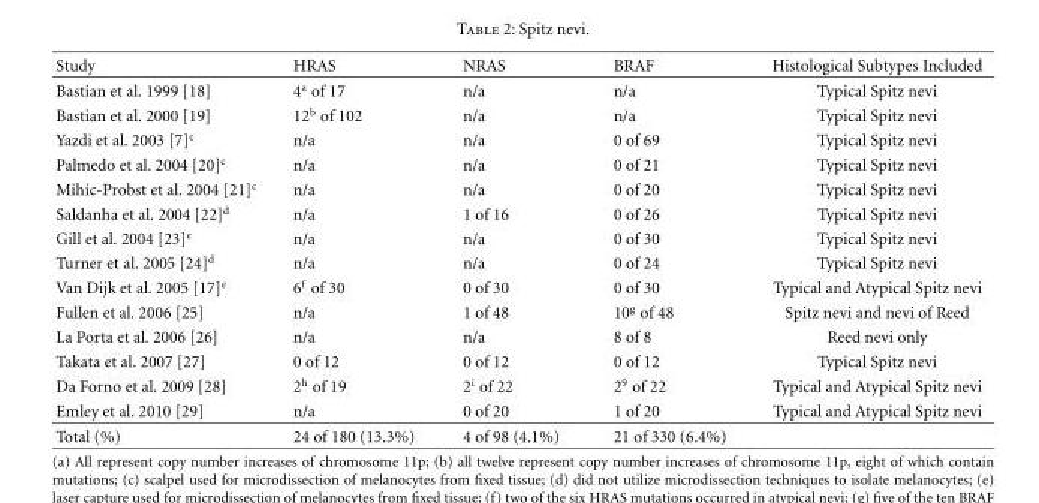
<table><thead><tr><td>Study</td><td>HRAS</td><td>NRAS</td><td>BRAF</td><td>Histological Subtypes Included</td></tr></thead><tbody><tr><td>Bastian et al. 1999 [18]</td><td>4<sup>a</sup> of 17</td><td>n/a</td><td>n/a</td><td>Typical Spitz nevi</td></tr><tr><td>Bastian et al. 2000 [19]</td><td>12<sup>b</sup> of 102</td><td>n/a</td><td>n/a</td><td>Typical Spitz nevi</td></tr><tr><td>Yazdi et al. 2003 [7]<sup>c</sup></td><td>n/a</td><td>n/a</td><td>0 of 69</td><td>Typical Spitz nevi</td></tr><tr><td>Palmedo et al. 2004 [20]<sup>c</sup></td><td>n/a</td><td>n/a</td><td>0 of 21</td><td>Typical Spitz nevi</td></tr><tr><td>Mihic-Probst et al. 2004 [21]<sup>c</sup></td><td>n/a</td><td>n/a</td><td>0 of 20</td><td>Typical Spitz nevi</td></tr><tr><td>Saldanha et al. 2004 [22]<sup>d</sup></td><td>n/a</td><td>1 of 16</td><td>0 of 26</td><td>Typical Spitz nevi</td></tr><tr><td>Gill et al. 2004 [23]<sup>e</sup></td><td>n/a</td><td>n/a</td><td>0 of 30</td><td>Typical Spitz nevi</td></tr><tr><td>Turner et al. 2005 [24]<sup>d</sup></td><td>n/a</td><td>n/a</td><td>0 of 24</td><td>Typical Spitz nevi</td></tr><tr><td>Van Dijk et al. 2005 [17]<sup>e</sup></td><td>6<sup>f</sup> of 30</td><td>0 of 30</td><td>0 of 30</td><td>Typical and Atypical Spitz nevi</td></tr><tr><td>Fullen et al. 2006 [25]</td><td>n/a</td><td>1 of 48</td><td>10<sup>g</sup> of 48</td><td>Spitz nevi and nevi of Reed</td></tr><tr><td>La Porta et al. 2006 [26]</td><td>n/a</td><td>n/a</td><td>8 of 8</td><td>Reed nevi only</td></tr><tr><td>Takata et al. 2007 [27]</td><td>0 of 12</td><td>0 of 12</td><td>0 of 12</td><td>Typical Spitz nevi</td></tr><tr><td>Da Forno et al. 2009 [28]</td><td>2<sup>h</sup> of 19</td><td>2<sup>i</sup> of 22</td><td>2<sup>9</sup> of 22</td><td>Typical and Atypical Spitz nevi</td></tr><tr><td>Emley et al. 2010 [29]</td><td>n/a</td><td>0 of 20</td><td>1 of 20</td><td>Typical and Atypical Spitz nevi</td></tr><tr><td>Total (%)</td><td>24 of 180 (13.3%)</td><td>4 of 98 (4.1%)</td><td>21 of 330 (6.4%)</td><td></td></tr></tbody></table>